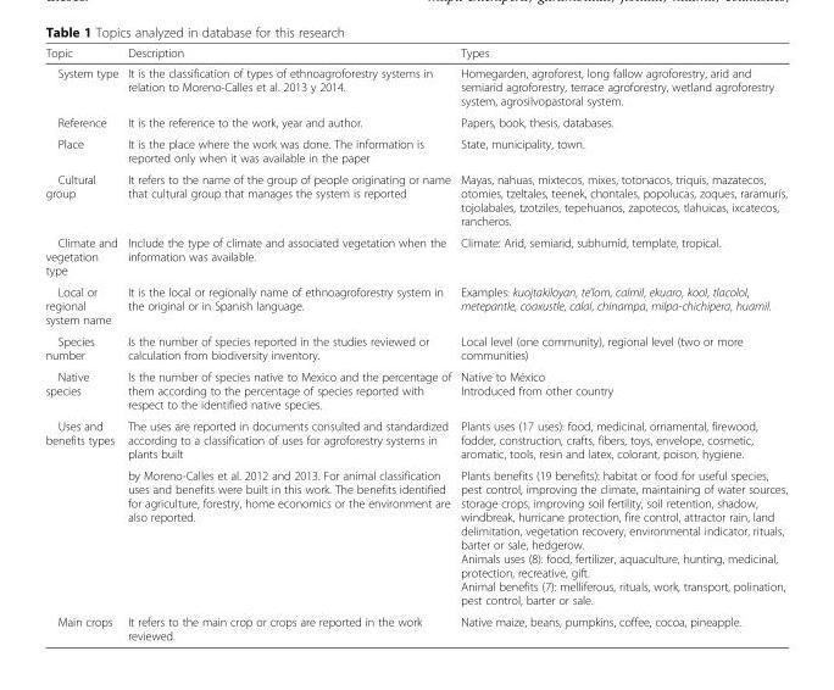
<table><thead><tr><td>Topic</td><td>Description</td><td>Types</td></tr></thead><tbody><tr><td>System type</td><td>It is the classification of types of ethnoagroforestry systems in relation to Moreno-Calles et al. 2013 y 2014.</td><td>Homegarden, agroforest, long fallow agroforestry, arid and semiarid agroforestry, terrace agroforestry, wetland agroforestry system, agrosilvopastoral system.</td></tr><tr><td>Reference</td><td>It is the reference to the work, year and author.</td><td>Papers, book, thesis, databases.</td></tr><tr><td>Place</td><td>It is the place where the work was done. The information is reported only when it was available in the paper</td><td>State, municipality, town.</td></tr><tr><td>Cultural group</td><td>It refers to the name of the group of people originating or name that cultural group that manages the system is reported</td><td>Mayas, nahuas, mixtecos, mixes, totonacos, triquis, mazatecos, otomies, tzeltales, teenek, chontales, popolucas, zoques, raramurís, tojolabales, tzotziles, tepehuanos, zapotecos, tlahuicas, ixcatecos, rancheros.</td></tr><tr><td>Climate and vegetation type</td><td>Include the type of climate and associated vegetation when the information was available.</td><td>Climate: Arid, semiarid, subhumid, template, tropical.</td></tr><tr><td>Local or regional system name</td><td>It is the local or regionally name of ethnoagroforestry system in the original or in Spanish language.</td><td>Examples: kuojtakiloyan, te’lom, calmil, ekuaro, kool, tlacolol, metepantle, coaxustle, calal, chinampa, milpa-chichipera, huamil.</td></tr><tr><td>Species number</td><td>Is the number of species reported in the studies reviewed or calculation from biodiversity inventory.</td><td>Local level (one community), regional level (two or more communities)</td></tr><tr><td>Native species</td><td>Is the number of species native to Mexico and the percentage of them according to the percentage of species reported with respect to the identified native species.</td><td>Native to México Introduced from other country</td></tr><tr><td rowspan="2">Uses and benefits types</td><td>The uses are reported in documents consulted and standardized according to a classification of uses for agroforestry systems in plants built</td><td>Plants uses (17 uses): food, medicinal, ornamental, firewood, fodder, construction, crafts, fibers, toys, envelope, cosmetic, aromatic, tools, resin and latex, colorant, poison, hygiene.</td></tr><tr><td>by Moreno-Calles et al. 2012 and 2013. For animal classification uses and benefits were built in this work. The benefits identified for agriculture, forestry, home economics or the environment are also reported.</td><td>Plants benefits (19 benefits): habitat or food for useful species, pest control, improving the climate, maintaining of water sources, storage crops, improving soil fertility, soil retention, shadow, windbreak, hurricane protection, fire control, attractor rain, land delimitation, vegetation recovery, environmental indicator, rituals, barter or sale, hedgerow. Animals uses (8): food, fertilizer, aquaculture, hunting, medicinal, protection, recreative, gift. Animal benefits (7): melliferous, rituals, work, transport, polination, pest control, barter or sale.</td></tr><tr><td>Main crops</td><td>It refers to the main crop or crops are reported in the work reviewed.</td><td>Native maize, beans, pumpkins, coffee, cocoa, pineapple.</td></tr></tbody></table>